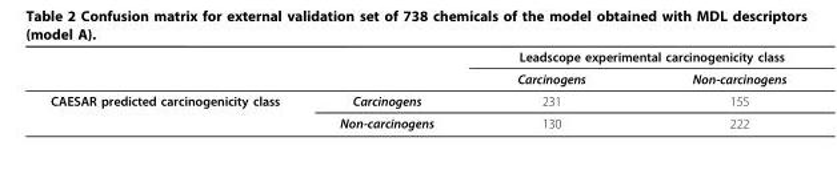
<table><thead><tr><td rowspan="2"></td><td rowspan="2"></td><td colspan="2">Leadscope experimental carcinogenicity class</td></tr><tr><td>Carcinogens</td><td>Non-carcinogens</td></tr></thead><tbody><tr><td rowspan="2">CAESAR predicted carcinogenicity class</td><td>Carcinogens</td><td>231</td><td>155</td></tr><tr><td>Non-carcinogens</td><td>130</td><td>222</td></tr></tbody></table>